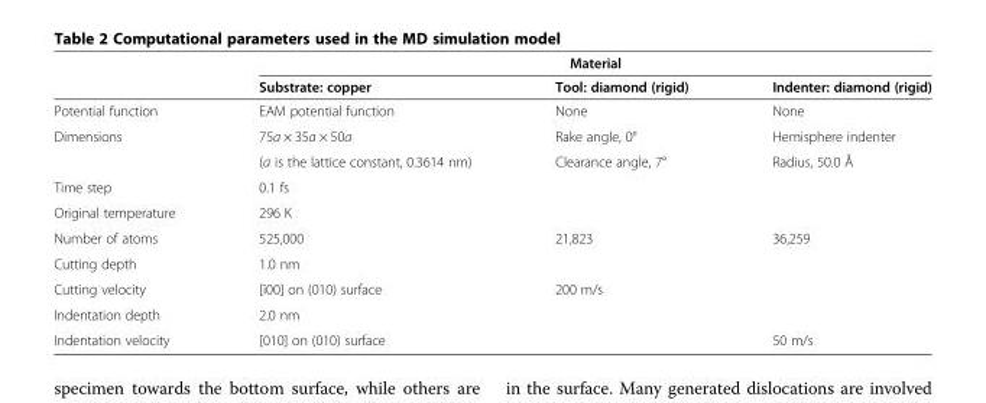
<table><thead><tr><td rowspan="2"></td><td colspan="3">Material</td></tr><tr><td>Substrate: copper</td><td>Tool: diamond (rigid)</td><td>Indenter: diamond (rigid)</td></tr></thead><tbody><tr><td>Potential function</td><td>EAM potential function</td><td>None</td><td>None</td></tr><tr><td rowspan="2">Dimensions</td><td>75a × 35a × 50a</td><td>Rake angle, 0°</td><td>Hemisphere indenter</td></tr><tr><td>(a is the lattice constant, 0.3614 nm)</td><td>Clearance angle, 7°</td><td>Radius, 50.0 Å</td></tr><tr><td>Time step</td><td>0.1 fs</td><td></td><td></td></tr><tr><td>Original temperature</td><td>296 K</td><td></td><td></td></tr><tr><td>Number of atoms</td><td>525,000</td><td>21,823</td><td>36,259</td></tr><tr><td>Cutting depth</td><td>1.0 nm</td><td></td><td></td></tr><tr><td>Cutting velocity</td><td>[ī00] on (010) surface</td><td>200 m/s</td><td></td></tr><tr><td>Indentation depth</td><td>2.0 nm</td><td></td><td></td></tr><tr><td>Indentation velocity</td><td>[010] on (010) surface</td><td></td><td>50 m/s</td></tr></tbody></table>